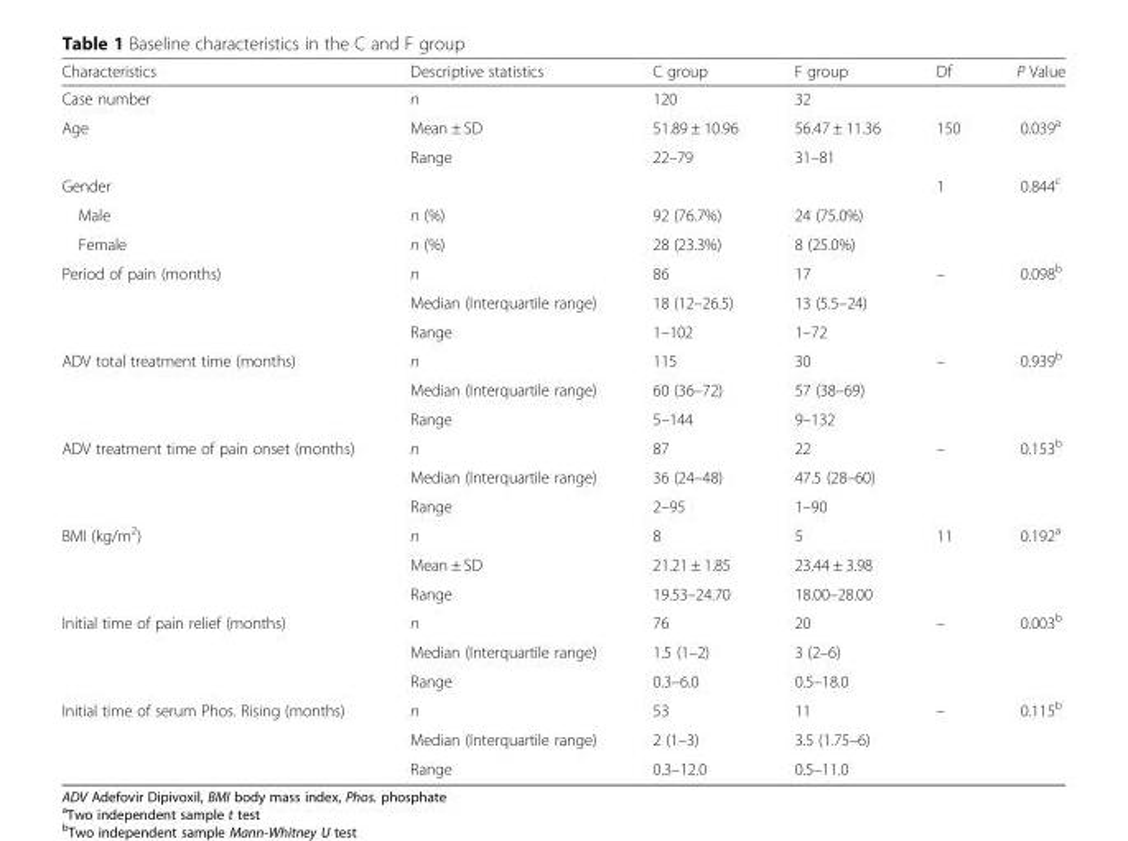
<table><thead><tr><td>Characteristics</td><td>Descriptive statistics</td><td>C group</td><td>F group</td><td>Df</td><td>P Value</td></tr></thead><tbody><tr><td>Case number</td><td>n</td><td>120</td><td>32</td><td></td><td></td></tr><tr><td rowspan="2">Age</td><td>Mean ± SD</td><td>51.89 ± 10.96</td><td>56.47 ± 11.36</td><td rowspan="2">150</td><td rowspan="2">0.039<sup>a</sup></td></tr><tr><td>Range</td><td>22–79</td><td>31–81</td></tr><tr><td colspan="4">Gender</td><td rowspan="3">1</td><td rowspan="3">0.844<sup>c</sup></td></tr><tr><td>Male</td><td>n (%)</td><td>92 (76.7%)</td><td>24 (75.0%)</td></tr><tr><td>Female</td><td>n (%)</td><td>28 (23.3%)</td><td>8 (25.0%)</td></tr><tr><td rowspan="3">Period of pain (months)</td><td>n</td><td>86</td><td>17</td><td rowspan="3">–</td><td rowspan="3">0.098<sup>b</sup></td></tr><tr><td>Median (Interquartile range)</td><td>18 (12–26.5)</td><td>13 (5.5–24)</td></tr><tr><td>Range</td><td>1–102</td><td>1–72</td></tr><tr><td rowspan="3">ADV total treatment time (months)</td><td>n</td><td>115</td><td>30</td><td rowspan="3">–</td><td rowspan="3">0.939<sup>b</sup></td></tr><tr><td>Median (Interquartile range)</td><td>60 (36–72)</td><td>57 (38–69)</td></tr><tr><td>Range</td><td>5–144</td><td>9–132</td></tr><tr><td rowspan="3">ADV treatment time of pain onset (months)</td><td>n</td><td>87</td><td>22</td><td rowspan="3">–</td><td rowspan="3">0.153<sup>b</sup></td></tr><tr><td>Median (Interquartile range)</td><td>36 (24–48)</td><td>47.5 (28–60)</td></tr><tr><td>Range</td><td>2–95</td><td>1–90</td></tr><tr><td rowspan="3">BMI (kg/m<sup>2</sup>)</td><td>n</td><td>8</td><td>5</td><td rowspan="3">11</td><td rowspan="3">0.192<sup>a</sup></td></tr><tr><td>Mean ± SD</td><td>21.21 ± 1.85</td><td>23.44 ± 3.98</td></tr><tr><td>Range</td><td>19.53–24.70</td><td>18.00–28.00</td></tr><tr><td rowspan="3">Initial time of pain relief (months)</td><td>n</td><td>76</td><td>20</td><td rowspan="3">–</td><td rowspan="3">0.003<sup>b</sup></td></tr><tr><td>Median (Interquartile range)</td><td>1.5 (1–2)</td><td>3 (2–6)</td></tr><tr><td>Range</td><td>0.3–6.0</td><td>0.5–18.0</td></tr><tr><td rowspan="3">Initial time of serum Phos. Rising (months)</td><td>n</td><td>53</td><td>11</td><td rowspan="3">–</td><td rowspan="3">0.115<sup>b</sup></td></tr><tr><td>Median (Interquartile range)</td><td>2 (1–3)</td><td>3.5 (1.75–6)</td></tr><tr><td>Range</td><td>0.3–12.0</td><td>0.5–11.0</td></tr></tbody></table>